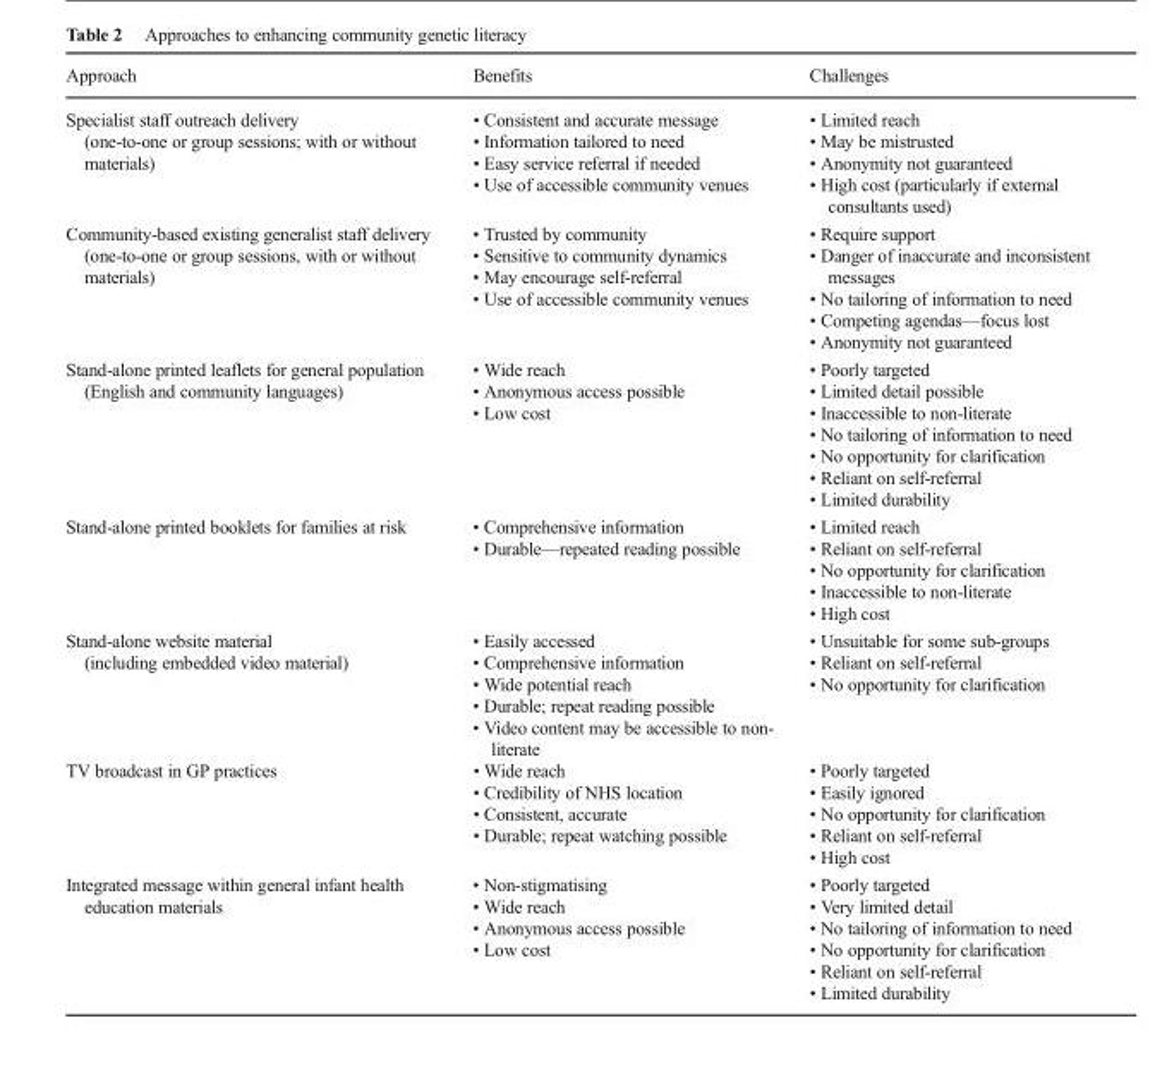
<table><thead><tr><td>Approach</td><td>Benefits</td><td>Challenges</td></tr></thead><tbody><tr><td>Specialist staff outreach delivery (one-to-one or group sessions; with or without materials)</td><td>• Consistent and accurate message • Information tailored to need • Easy service referral if needed • Use of accessible community venues</td><td>• Limited reach • May be mistrusted • Anonymity not guaranteed • High cost (particularly if external consultants used)</td></tr><tr><td>Community-based existing generalist staff delivery (one-to-one or group sessions, with or without materials)</td><td>• Trusted by community • Sensitive to community dynamics • May encourage self-referral • Use of accessible community venues</td><td>• Require support • Danger of inaccurate and inconsistent messages • No tailoring of information to need • Competing agendas—focus lost • Anonymity not guaranteed</td></tr><tr><td>Stand-alone printed leaflets for general population (English and community languages)</td><td>• Wide reach • Anonymous access possible • Low cost</td><td>• Poorly targeted • Limited detail possible • Inaccessible to non-literate • No tailoring of information to need • No opportunity for clarification • Reliant on self-referral • Limited durability</td></tr><tr><td>Stand-alone printed booklets for families at risk</td><td>• Comprehensive information • Durable—repeated reading possible</td><td>• Limited reach • Reliant on self-referral • No opportunity for clarification • Inaccessible to non-literate • High cost</td></tr><tr><td>Stand-alone website material (including embedded video material)</td><td>• Easily accessed • Comprehensive information • Wide potential reach • Durable; repeat reading possible • Video content may be accessible to non- literate</td><td>• Unsuitable for some sub-groups • Reliant on self-referral • No opportunity for clarification</td></tr><tr><td>TV broadcast in GP practices</td><td>• Wide reach • Credibility of NHS location • Consistent, accurate • Durable; repeat watching possible</td><td>• Poorly targeted • Easily ignored • No opportunity for clarification • Reliant on self-referral • High cost</td></tr><tr><td>Integrated message within general infant health education materials</td><td>• Non-stigmatising • Wide reach • Anonymous access possible • Low cost</td><td>• Poorly targeted • Very limited detail • No tailoring of information to need • No opportunity for clarification • Reliant on self-referral • Limited durability</td></tr></tbody></table>